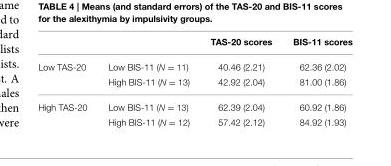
<table><thead><tr><td></td><td></td><td>TAS-20 scores</td><td>BIS-11 scores</td></tr></thead><tbody><tr><td rowspan="2">Low TAS-20</td><td>Low BIS-11 (N = 11)</td><td>40.46 (2.21)</td><td>62.36 (2.02)</td></tr><tr><td>High BIS-11 (N = 13)</td><td>42.92 (2.04)</td><td>81.00 (1.86)</td></tr><tr><td rowspan="2">High TAS-20</td><td>Low BIS-11 (N = 13)</td><td>62.39 (2.04)</td><td>60.92 (1.86)</td></tr><tr><td>High BIS-11 (N = 12)</td><td>57.42 (2.12)</td><td>84.92 (1.93)</td></tr></tbody></table>